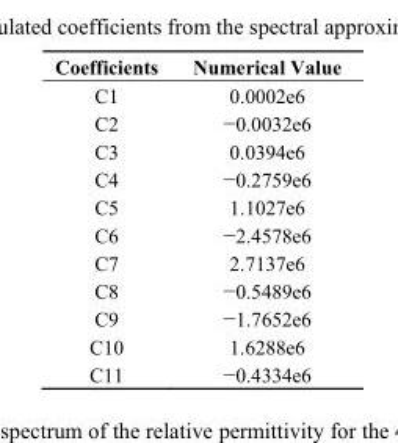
<table><thead><tr><td>Coefficients</td><td>Numerical Value</td></tr></thead><tbody><tr><td>C1</td><td>0.0002e6</td></tr><tr><td>C2</td><td>−0.0032e6</td></tr><tr><td>C3</td><td>0.0394e6</td></tr><tr><td>C4</td><td>−0.2759e6</td></tr><tr><td>C5</td><td>1.1027e6</td></tr><tr><td>C6</td><td>−2.4578e6</td></tr><tr><td>C7</td><td>2.7137e6</td></tr><tr><td>C8</td><td>−0.5489e6</td></tr><tr><td>C9</td><td>−1.7652e6</td></tr><tr><td>C10</td><td>1.6288e6</td></tr><tr><td>C11</td><td>−0.4334e6</td></tr></tbody></table>